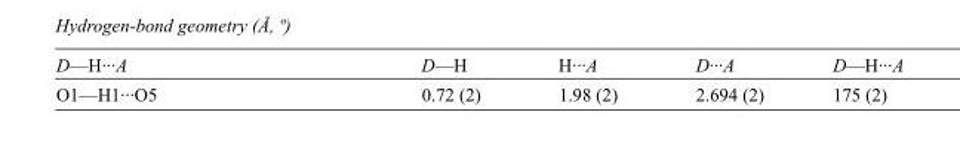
<table><tbody><tr><td>D—H···A</td><td>D—H</td><td>H···A</td><td>D···A</td><td>D—H···A</td></tr><tr><td>O1—H1···O5</td><td>0.72 (2)</td><td>1.98 (2)</td><td>2.694 (2)</td><td>175 (2)</td></tr></tbody></table>